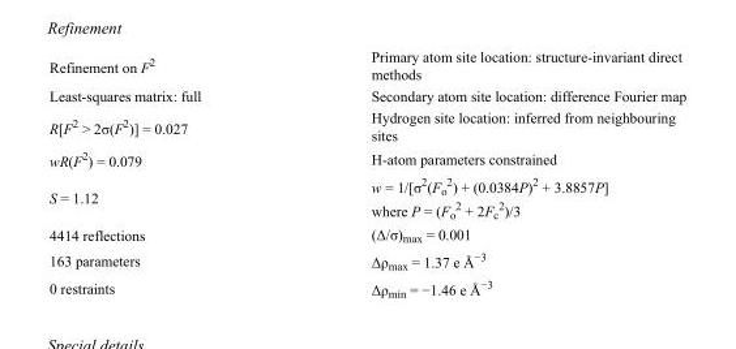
<table><tbody><tr><td>Refinement on F<sup>2</sup></td><td>Primary atom site location: structure-invariant direct methods</td></tr><tr><td>Least-squares matrix: full</td><td>Secondary atom site location: difference Fourier map</td></tr><tr><td>R[F<sup>2</sup> &gt; 2σ(F<sup>2</sup>)] = 0.027</td><td>Hydrogen site location: inferred from neighbouring sites</td></tr><tr><td>wR(F<sup>2</sup>) = 0.079</td><td>H-atom parameters constrained</td></tr><tr><td>S = 1.12</td><td>w = 1/[σ<sup>2</sup>(F<sub>o</sub> <sup>2</sup>) + (0.0384P)<sup>2</sup> + 3.8857P] where P = (F<sub>o</sub> <sup>2</sup> + 2F<sub>c</sub> <sup>2</sup>)/3</td></tr><tr><td>4414 reflections</td><td>(Δ/σ)<sub>max</sub> = 0.001</td></tr><tr><td>163 parameters</td><td>Δρ<sub>max</sub> = 1.37 e Å<sup>−3</sup></td></tr><tr><td>0 restraints</td><td>Δρ<sub>min</sub> = −1.46 e Å<sup>−3</sup></td></tr></tbody></table>